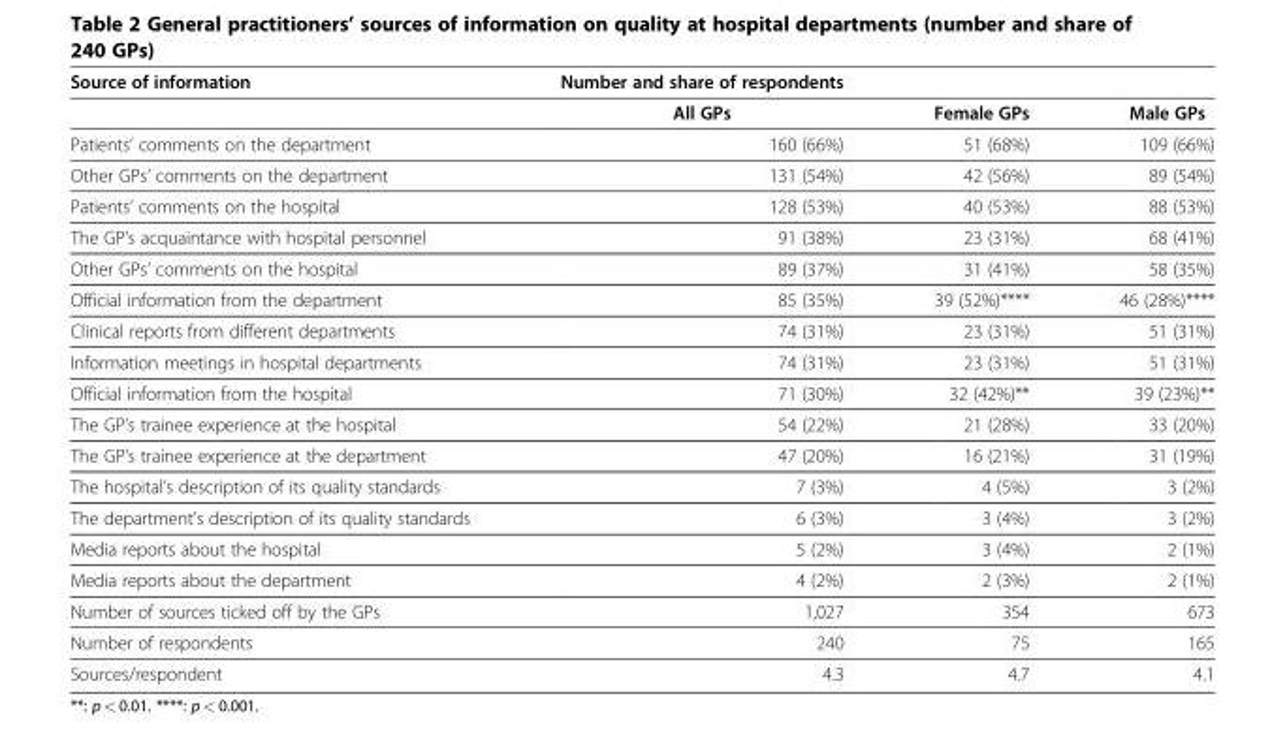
<table><thead><tr><td>Source of information</td><td>Number and share of respondents</td><td></td><td></td></tr></thead><tbody><tr><td></td><td>All GPs</td><td>Female GPs</td><td>Male GPs</td></tr><tr><td>Patients’ comments on the department</td><td>160 (66%)</td><td>51 (68%)</td><td>109 (66%)</td></tr><tr><td>Other GPs’ comments on the department</td><td>131 (54%)</td><td>42 (56%)</td><td>89 (54%)</td></tr><tr><td>Patients’ comments on the hospital</td><td>128 (53%)</td><td>40 (53%)</td><td>88 (53%)</td></tr><tr><td>The GP’s acquaintance with hospital personnel</td><td>91 (38%)</td><td>23 (31%)</td><td>68 (41%)</td></tr><tr><td>Other GPs’ comments on the hospital</td><td>89 (37%)</td><td>31 (41%)</td><td>58 (35%)</td></tr><tr><td>Official information from the department</td><td>85 (35%)</td><td>39 (52%)****</td><td>46 (28%)****</td></tr><tr><td>Clinical reports from different departments</td><td>74 (31%)</td><td>23 (31%)</td><td>51 (31%)</td></tr><tr><td>Information meetings in hospital departments</td><td>74 (31%)</td><td>23 (31%)</td><td>51 (31%)</td></tr><tr><td>Official information from the hospital</td><td>71 (30%)</td><td>32 (42%)**</td><td>39 (23%)**</td></tr><tr><td>The GP’s trainee experience at the hospital</td><td>54 (22%)</td><td>21 (28%)</td><td>33 (20%)</td></tr><tr><td>The GP’s trainee experience at the department</td><td>47 (20%)</td><td>16 (21%)</td><td>31 (19%)</td></tr><tr><td>The hospital’s description of its quality standards</td><td>7 (3%)</td><td>4 (5%)</td><td>3 (2%)</td></tr><tr><td>The department’s description of its quality standards</td><td>6 (3%)</td><td>3 (4%)</td><td>3 (2%)</td></tr><tr><td>Media reports about the hospital</td><td>5 (2%)</td><td>3 (4%)</td><td>2 (1%)</td></tr><tr><td>Media reports about the department</td><td>4 (2%)</td><td>2 (3%)</td><td>2 (1%)</td></tr><tr><td>Number of sources ticked off by the GPs</td><td>1,027</td><td>354</td><td>673</td></tr><tr><td>Number of respondents</td><td>240</td><td>75</td><td>165</td></tr><tr><td>Sources/respondent</td><td>4.3</td><td>4.7</td><td>4.1</td></tr></tbody></table>